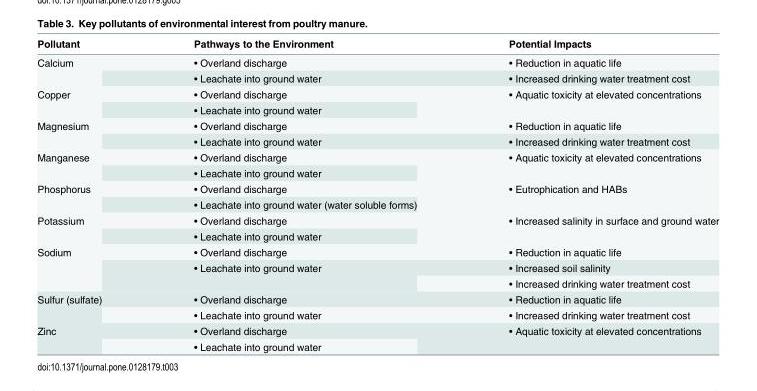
<table><thead><tr><td>Pollutant</td><td>Pathways to the Environment</td><td>Potential Impacts</td></tr></thead><tbody><tr><td rowspan="2">Calcium</td><td>• Overland discharge</td><td>• Reduction in aquatic life</td></tr><tr><td>• Leachate into ground water</td><td>• Increased drinking water treatment cost</td></tr><tr><td rowspan="2">Copper</td><td>• Overland discharge</td><td rowspan="2">• Aquatic toxicity at elevated concentrations</td></tr><tr><td>• Leachate into ground water</td></tr><tr><td rowspan="2">Magnesium</td><td>• Overland discharge</td><td>• Reduction in aquatic life</td></tr><tr><td>• Leachate into ground water</td><td>• Increased drinking water treatment cost</td></tr><tr><td rowspan="2">Manganese</td><td>• Overland discharge</td><td rowspan="2">• Aquatic toxicity at elevated concentrations</td></tr><tr><td>• Leachate into ground water</td></tr><tr><td rowspan="2">Phosphorus</td><td>• Overland discharge</td><td rowspan="2">• Eutrophication and HABs</td></tr><tr><td>• Leachate into ground water (water soluble forms)</td></tr><tr><td rowspan="2">Potassium</td><td>• Overland discharge</td><td rowspan="2">• Increased salinity in surface and ground water</td></tr><tr><td>• Leachate into ground water</td></tr><tr><td rowspan="3">Sodium</td><td>• Overland discharge</td><td>• Reduction in aquatic life</td></tr><tr><td rowspan="2">• Leachate into ground water</td><td>• Increased soil salinity</td></tr><tr><td>• Increased drinking water treatment cost</td></tr><tr><td rowspan="2">Sulfur (sulfate)</td><td>• Overland discharge</td><td>• Reduction in aquatic life</td></tr><tr><td>• Leachate into ground water</td><td>• Increased drinking water treatment cost</td></tr><tr><td rowspan="2">Zinc</td><td>• Overland discharge</td><td rowspan="2">• Aquatic toxicity at elevated concentrations</td></tr><tr><td>• Leachate into ground water</td></tr></tbody></table>